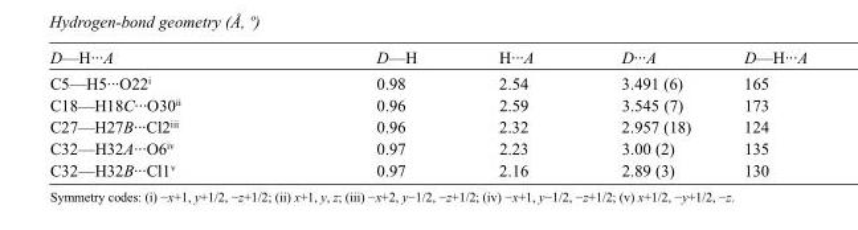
<table><tbody><tr><td>D—H···A</td><td>D—H</td><td>H···A</td><td>D···A</td><td>D—H···A</td></tr><tr><td>C5—H5···O22<sup>i</sup></td><td>0.98</td><td>2.54</td><td>3.491 (6)</td><td>165</td></tr><tr><td>C18—H18C···O30<sup>ii</sup></td><td>0.96</td><td>2.59</td><td>3.545 (7)</td><td>173</td></tr><tr><td>C27—H27B···Cl2<sup>iii</sup></td><td>0.96</td><td>2.32</td><td>2.957 (18)</td><td>124</td></tr><tr><td>C32—H32A···O6<sup>iv</sup></td><td>0.97</td><td>2.23</td><td>3.00 (2)</td><td>135</td></tr><tr><td>C32—H32B···Cl1<sup>v</sup></td><td>0.97</td><td>2.16</td><td>2.89 (3)</td><td>130</td></tr></tbody></table>